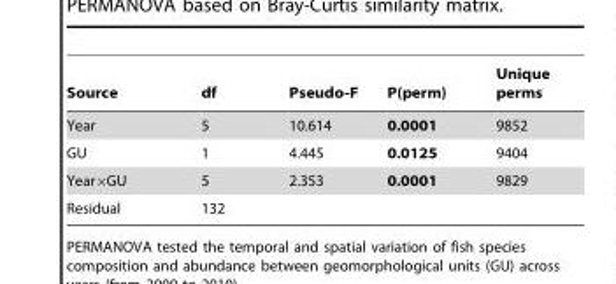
<table><thead><tr><td>Source</td><td>df</td><td>Pseudo-F</td><td>P(perm)</td><td>Unique perms</td></tr></thead><tbody><tr><td>Year</td><td>5</td><td>10.614</td><td>0.0001</td><td>9852</td></tr><tr><td>GU</td><td>1</td><td>4.445</td><td>0.0125</td><td>9404</td></tr><tr><td>Year×GU</td><td>5</td><td>2.353</td><td>0.0001</td><td>9829</td></tr><tr><td>Residual</td><td>132</td><td></td><td></td><td></td></tr></tbody></table>